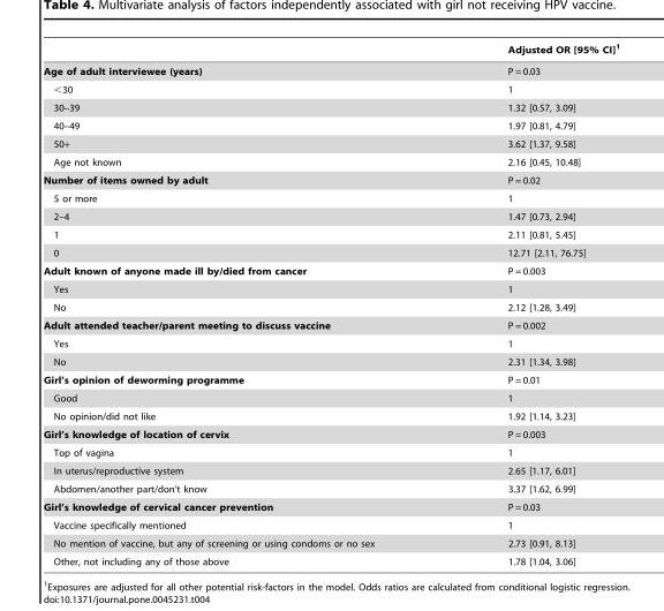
<table><thead><tr><td></td><td>Adjusted OR [95% CI]<sup>1</sup></td></tr></thead><tbody><tr><td>Age of adult interviewee (years)</td><td>P = 0.03</td></tr><tr><td>&lt;30</td><td>1</td></tr><tr><td>30–39</td><td>1.32 [0.57, 3.09]</td></tr><tr><td>40–49</td><td>1.97 [0.81, 4.79]</td></tr><tr><td>50+</td><td>3.62 [1.37, 9.58]</td></tr><tr><td>Age not known</td><td>2.16 [0.45, 10.48]</td></tr><tr><td>Number of items owned by adult</td><td>P = 0.02</td></tr><tr><td>5 or more</td><td>1</td></tr><tr><td>2–4</td><td>1.47 [0.73, 2.94]</td></tr><tr><td>1</td><td>2.11 [0.81, 5.45]</td></tr><tr><td>0</td><td>12.71 [2.11, 76.75]</td></tr><tr><td>Adult known of anyone made ill by/died from cancer</td><td>P = 0.003</td></tr><tr><td>Yes</td><td>1</td></tr><tr><td>No</td><td>2.12 [1.28, 3.49]</td></tr><tr><td>Adult attended teacher/parent meeting to discuss vaccine</td><td>P = 0.002</td></tr><tr><td>Yes</td><td>1</td></tr><tr><td>No</td><td>2.31 [1.34, 3.98]</td></tr><tr><td>Girl’s opinion of deworming programme</td><td>P = 0.01</td></tr><tr><td>Good</td><td>1</td></tr><tr><td>No opinion/did not like</td><td>1.92 [1.14, 3.23]</td></tr><tr><td>Girl’s knowledge of location of cervix</td><td>P = 0.003</td></tr><tr><td>Top of vagina</td><td>1</td></tr><tr><td>In uterus/reproductive system</td><td>2.65 [1.17, 6.01]</td></tr><tr><td>Abdomen/another part/don’t know</td><td>3.37 [1.62, 6.99]</td></tr><tr><td>Girl’s knowledge of cervical cancer prevention</td><td>P = 0.03</td></tr><tr><td>Vaccine specifically mentioned</td><td>1</td></tr><tr><td>No mention of vaccine, but any of screening or using condoms or no sex</td><td>2.73 [0.91, 8.13]</td></tr><tr><td>Other, not including any of those above</td><td>1.78 [1.04, 3.06]</td></tr></tbody></table>